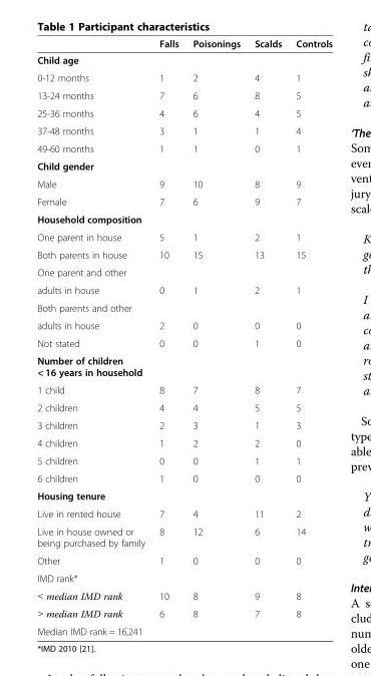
<table><thead><tr><td></td><td>Falls</td><td>Poisonings</td><td>Scalds</td><td>Controls</td></tr></thead><tbody><tr><td colspan="5">Child age</td></tr><tr><td>0-12 months</td><td>1</td><td>2</td><td>4</td><td>1</td></tr><tr><td>13-24 months</td><td>7</td><td>6</td><td>8</td><td>5</td></tr><tr><td>25-36 months</td><td>4</td><td>6</td><td>4</td><td>5</td></tr><tr><td>37-48 months</td><td>3</td><td>1</td><td>1</td><td>4</td></tr><tr><td>49-60 months</td><td>1</td><td>1</td><td>0</td><td>1</td></tr><tr><td colspan="5">Child gender</td></tr><tr><td>Male</td><td>9</td><td>10</td><td>8</td><td>9</td></tr><tr><td>Female</td><td>7</td><td>6</td><td>9</td><td>7</td></tr><tr><td colspan="5">Household composition</td></tr><tr><td>One parent in house</td><td>5</td><td>1</td><td>2</td><td>1</td></tr><tr><td>Both parents in house</td><td>10</td><td>15</td><td>13</td><td>15</td></tr><tr><td colspan="5">One parent and other</td></tr><tr><td>adults in house</td><td>0</td><td>1</td><td>2</td><td>1</td></tr><tr><td colspan="5">Both parents and other</td></tr><tr><td>adults in house</td><td>2</td><td>0</td><td>0</td><td>0</td></tr><tr><td>Not stated</td><td>0</td><td>0</td><td>1</td><td>0</td></tr><tr><td colspan="5">Number of children &lt; 16 years in household</td></tr><tr><td>1 child</td><td>8</td><td>7</td><td>8</td><td>7</td></tr><tr><td>2 children</td><td>4</td><td>4</td><td>5</td><td>5</td></tr><tr><td>3 children</td><td>2</td><td>3</td><td>1</td><td>3</td></tr><tr><td>4 children</td><td>1</td><td>2</td><td>2</td><td>0</td></tr><tr><td>5 children</td><td>0</td><td>0</td><td>1</td><td>1</td></tr><tr><td>6 children</td><td>1</td><td>0</td><td>0</td><td>0</td></tr><tr><td colspan="5">Housing tenure</td></tr><tr><td>Live in rented house</td><td>7</td><td>4</td><td>11</td><td>2</td></tr><tr><td>Live in house owned or being purchased by family</td><td>8</td><td>12</td><td>6</td><td>14</td></tr><tr><td>Other</td><td>1</td><td>0</td><td>0</td><td>0</td></tr><tr><td colspan="5">IMD rank*</td></tr><tr><td>˂ median IMD rank</td><td>10</td><td>8</td><td>9</td><td>8</td></tr><tr><td>˃ median IMD rank</td><td>6</td><td>8</td><td>7</td><td>8</td></tr><tr><td>Median IMD rank = 16,241</td><td></td><td></td><td></td><td></td></tr></tbody></table>